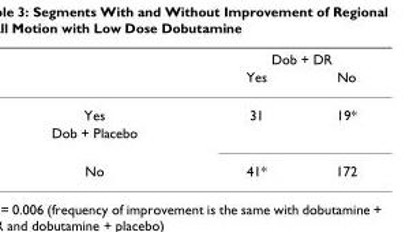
<table><thead><tr><td rowspan="2"></td><td colspan="2">Dob + DR</td></tr><tr><td>Yes</td><td>No</td></tr></thead><tbody><tr><td>Yes</td><td>31</td><td>19*</td></tr><tr><td colspan="3">Dob + Placebo</td></tr><tr><td>No</td><td>41*</td><td>172</td></tr></tbody></table>